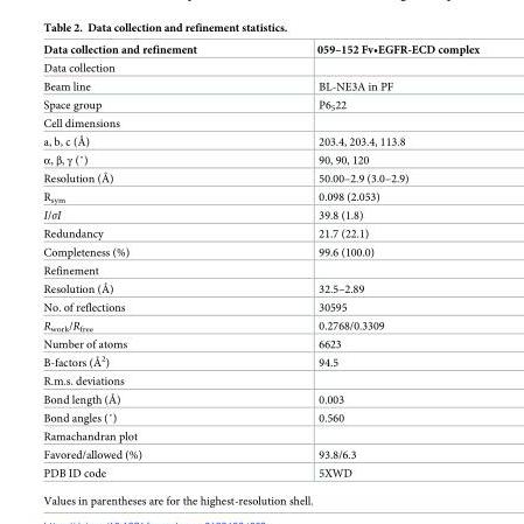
<table><thead><tr><td>Data collection and refinement</td><td>059–152 Fv•EGFR-ECD complex</td></tr></thead><tbody><tr><td colspan="2">Data collection</td></tr><tr><td>Beam line</td><td>BL-NE3A in PF</td></tr><tr><td>Space group</td><td>P6<sub>5</sub>22</td></tr><tr><td colspan="2">Cell dimensions</td></tr><tr><td>a, b, c (Å)</td><td>203.4, 203.4, 113.8</td></tr><tr><td>α, β, γ (˚)</td><td>90, 90, 120</td></tr><tr><td>Resolution (Å)</td><td>50.00–2.9 (3.0–2.9)</td></tr><tr><td>R<sub>sym</sub></td><td>0.098 (2.053)</td></tr><tr><td>I/σI</td><td>39.8 (1.8)</td></tr><tr><td>Redundancy</td><td>21.7 (22.1)</td></tr><tr><td>Completeness (%)</td><td>99.6 (100.0)</td></tr><tr><td colspan="2">Refinement</td></tr><tr><td>Resolution (Å)</td><td>32.5–2.89</td></tr><tr><td>No. of reflections</td><td>30595</td></tr><tr><td>R<sub>work</sub>/R<sub>free</sub></td><td>0.2768/0.3309</td></tr><tr><td>Number of atoms</td><td>6623</td></tr><tr><td>B-factors (Å<sup>2</sup>)</td><td>94.5</td></tr><tr><td colspan="2">R.m.s. deviations</td></tr><tr><td>Bond length (Å)</td><td>0.003</td></tr><tr><td>Bond angles (˚)</td><td>0.560</td></tr><tr><td colspan="2">Ramachandran plot</td></tr><tr><td>Favored/allowed (%)</td><td>93.8/6.3</td></tr><tr><td>PDB ID code</td><td>5XWD</td></tr></tbody></table>